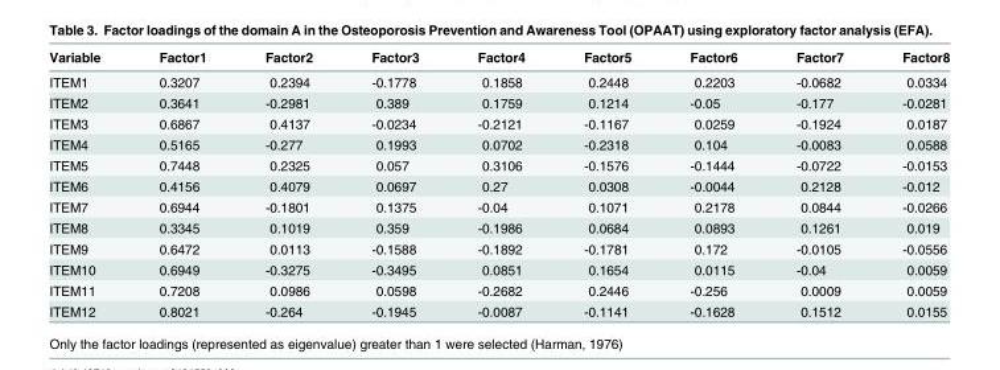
<table><thead><tr><td>Variable</td><td>Factor1</td><td>Factor2</td><td>Factor3</td><td>Factor4</td><td>Factor5</td><td>Factor6</td><td>Factor7</td><td>Factor8</td></tr></thead><tbody><tr><td>ITEM1</td><td>0.3207</td><td>0.2394</td><td>-0.1778</td><td>0.1858</td><td>0.2448</td><td>0.2203</td><td>-0.0682</td><td>0.0334</td></tr><tr><td>ITEM2</td><td>0.3641</td><td>-0.2981</td><td>0.389</td><td>0.1759</td><td>0.1214</td><td>-0.05</td><td>-0.177</td><td>-0.0281</td></tr><tr><td>ITEM3</td><td>0.6867</td><td>0.4137</td><td>-0.0234</td><td>-0.2121</td><td>-0.1167</td><td>0.0259</td><td>-0.1924</td><td>0.0187</td></tr><tr><td>ITEM4</td><td>0.5165</td><td>-0.277</td><td>0.1993</td><td>0.0702</td><td>-0.2318</td><td>0.104</td><td>-0.0083</td><td>0.0588</td></tr><tr><td>ITEM5</td><td>0.7448</td><td>0.2325</td><td>0.057</td><td>0.3106</td><td>-0.1576</td><td>-0.1444</td><td>-0.0722</td><td>-0.0153</td></tr><tr><td>ITEM6</td><td>0.4156</td><td>0.4079</td><td>0.0697</td><td>0.27</td><td>0.0308</td><td>-0.0044</td><td>0.2128</td><td>-0.012</td></tr><tr><td>ITEM7</td><td>0.6944</td><td>-0.1801</td><td>0.1375</td><td>-0.04</td><td>0.1071</td><td>0.2178</td><td>0.0844</td><td>-0.0266</td></tr><tr><td>ITEM8</td><td>0.3345</td><td>0.1019</td><td>0.359</td><td>-0.1986</td><td>0.0684</td><td>0.0893</td><td>0.1261</td><td>0.019</td></tr><tr><td>ITEM9</td><td>0.6472</td><td>0.0113</td><td>-0.1588</td><td>-0.1892</td><td>-0.1781</td><td>0.172</td><td>-0.0105</td><td>-0.0556</td></tr><tr><td>ITEM10</td><td>0.6949</td><td>-0.3275</td><td>-0.3495</td><td>0.0851</td><td>0.1654</td><td>0.0115</td><td>-0.04</td><td>0.0059</td></tr><tr><td>ITEM11</td><td>0.7208</td><td>0.0986</td><td>0.0598</td><td>-0.2682</td><td>0.2446</td><td>-0.256</td><td>0.0009</td><td>0.0059</td></tr><tr><td>ITEM12</td><td>0.8021</td><td>-0.264</td><td>-0.1945</td><td>-0.0087</td><td>-0.1141</td><td>-0.1628</td><td>0.1512</td><td>0.0155</td></tr></tbody></table>